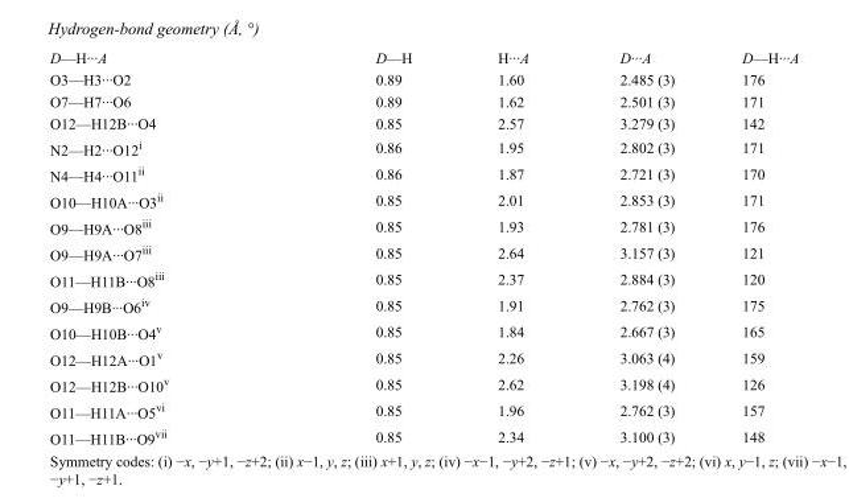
<table><tbody><tr><td>D—H···A</td><td>D—H</td><td>H···A</td><td>D···A</td><td>D—H···A</td></tr><tr><td>O3—H3···O2</td><td>0.89</td><td>1.60</td><td>2.485 (3)</td><td>176</td></tr><tr><td>O7—H7···O6</td><td>0.89</td><td>1.62</td><td>2.501 (3)</td><td>171</td></tr><tr><td>O12—H12B···O4</td><td>0.85</td><td>2.57</td><td>3.279 (3)</td><td>142</td></tr><tr><td>N2—H2···O12<sup>i</sup></td><td>0.86</td><td>1.95</td><td>2.802 (3)</td><td>171</td></tr><tr><td>N4—H4···O11<sup>ii</sup></td><td>0.86</td><td>1.87</td><td>2.721 (3)</td><td>170</td></tr><tr><td>O10—H10A···O3<sup>ii</sup></td><td>0.85</td><td>2.01</td><td>2.853 (3)</td><td>171</td></tr><tr><td>O9—H9A···O8<sup>iii</sup></td><td>0.85</td><td>1.93</td><td>2.781 (3)</td><td>176</td></tr><tr><td>O9—H9A···O7<sup>iii</sup></td><td>0.85</td><td>2.64</td><td>3.157 (3)</td><td>121</td></tr><tr><td>O11—H11B···O8<sup>iii</sup></td><td>0.85</td><td>2.37</td><td>2.884 (3)</td><td>120</td></tr><tr><td>O9—H9B···O6<sup>iv</sup></td><td>0.85</td><td>1.91</td><td>2.762 (3)</td><td>175</td></tr><tr><td>O10—H10B···O4<sup>v</sup></td><td>0.85</td><td>1.84</td><td>2.667 (3)</td><td>165</td></tr><tr><td>O12—H12A···O1<sup>v</sup></td><td>0.85</td><td>2.26</td><td>3.063 (4)</td><td>159</td></tr><tr><td>O12—H12B···O10<sup>v</sup></td><td>0.85</td><td>2.62</td><td>3.198 (4)</td><td>126</td></tr><tr><td>O11—H11A···O5<sup>vi</sup></td><td>0.85</td><td>1.96</td><td>2.762 (3)</td><td>157</td></tr><tr><td>O11—H11B···O9<sup>vii</sup></td><td>0.85</td><td>2.34</td><td>3.100 (3)</td><td>148</td></tr></tbody></table>